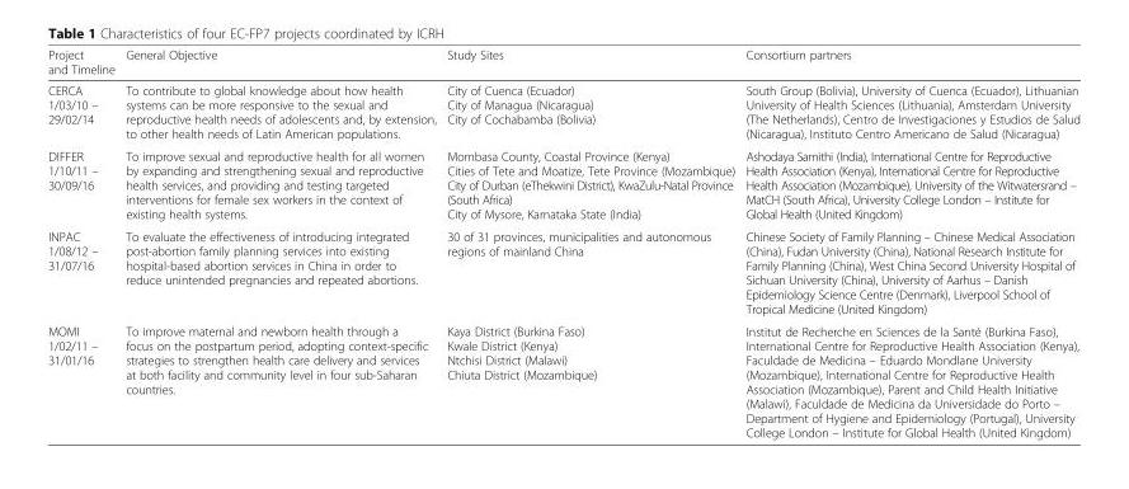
<table><thead><tr><td>Project and Timeline</td><td>General Objective</td><td>Study Sites</td><td>Consortium partners</td></tr></thead><tbody><tr><td>CERCA 1/03/10 – 29/02/14</td><td>To contribute to global knowledge about how health systems can be more responsive to the sexual and reproductive health needs of adolescents and, by extension, to other health needs of Latin American populations.</td><td>City of Cuenca (Ecuador) City of Managua (Nicaragua) City of Cochabamba (Bolivia)</td><td>South Group (Bolivia), University of Cuenca (Ecuador), Lithuanian University of Health Sciences (Lithuania), Amsterdam University (The Netherlands), Centro de Investigaciones y Estudios de Salud (Nicaragua), Instituto Centro Americano de Salud (Nicaragua)</td></tr><tr><td>DIFFER 1/10/11 – 30/09/16</td><td>To improve sexual and reproductive health for all women by expanding and strengthening sexual and reproductive health services, and providing and testing targeted interventions for female sex workers in the context of existing health systems.</td><td>Mombasa County, Coastal Province (Kenya) Cities of Tete and Moatize, Tete Province (Mozambique) City of Durban (eThekwini District), KwaZulu-Natal Province (South Africa) City of Mysore, Karnataka State (India)</td><td>Ashodaya Samithi (India), International Centre for Reproductive Health Association (Kenya), International Centre for Reproductive Health Association (Mozambique), University of the Witwatersrand – MatCH (South Africa), University College London – Institute for Global Health (United Kingdom)</td></tr><tr><td>INPAC 1/08/12 – 31/07/16</td><td>To evaluate the effectiveness of introducing integrated post-abortion family planning services into existing hospital-based abortion services in China in order to reduce unintended pregnancies and repeated abortions.</td><td>30 of 31 provinces, municipalities and autonomous regions of mainland China</td><td>Chinese Society of Family Planning – Chinese Medical Association (China), Fudan University (China), National Research Institute for Family Planning (China), West China Second University Hospital of Sichuan University (China), University of Aarhus – Danish Epidemiology Science Centre (Denmark), Liverpool School of Tropical Medicine (United Kingdom)</td></tr><tr><td>MOMI 1/02/11 – 31/01/16</td><td>To improve maternal and newborn health through a focus on the postpartum period, adopting context-specific strategies to strengthen health care delivery and services at both facility and community level in four sub-Saharan countries.</td><td>Kaya District (Burkina Faso) Kwale District (Kenya) Ntchisi District (Malawi) Chiuta District (Mozambique)</td><td>Institut de Recherche en Sciences de la Santé (Burkina Faso), International Centre for Reproductive Health Association (Kenya), Faculdade de Medicina – Eduardo Mondlane University (Mozambique), International Centre for Reproductive Health Association (Mozambique), Parent and Child Health Initiative (Malawi), Faculdade de Medicina da Universidade do Porto – Department of Hygiene and Epidemiology (Portugal), University College London – Institute for Global Health (United Kingdom)</td></tr></tbody></table>